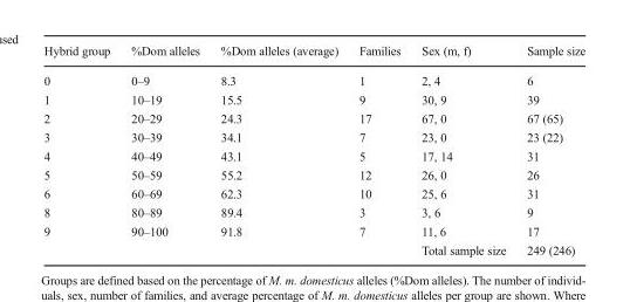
<table><thead><tr><td>Hybrid group</td><td>%Dom alleles</td><td>%Dom alleles (average)</td><td>Families</td><td>Sex (m, f)</td><td>Sample size</td></tr></thead><tbody><tr><td>0</td><td>0–9</td><td>8.3</td><td>1</td><td>2, 4</td><td>6</td></tr><tr><td>1</td><td>10–19</td><td>15.5</td><td>9</td><td>30, 9</td><td>39</td></tr><tr><td>2</td><td>20–29</td><td>24.3</td><td>17</td><td>67, 0</td><td>67 (65)</td></tr><tr><td>3</td><td>30–39</td><td>34.1</td><td>7</td><td>23, 0</td><td>23 (22)</td></tr><tr><td>4</td><td>40–49</td><td>43.1</td><td>5</td><td>17, 14</td><td>31</td></tr><tr><td>5</td><td>50–59</td><td>55.2</td><td>12</td><td>26, 0</td><td>26</td></tr><tr><td>6</td><td>60–69</td><td>62.3</td><td>10</td><td>25, 6</td><td>31</td></tr><tr><td>8</td><td>80–89</td><td>89.4</td><td>3</td><td>3, 6</td><td>9</td></tr><tr><td rowspan="2">9</td><td>90–100</td><td>91.8</td><td>7</td><td>11, 6</td><td>17</td></tr><tr><td></td><td></td><td></td><td>Total sample size</td><td>249 (246)</td></tr></tbody></table>